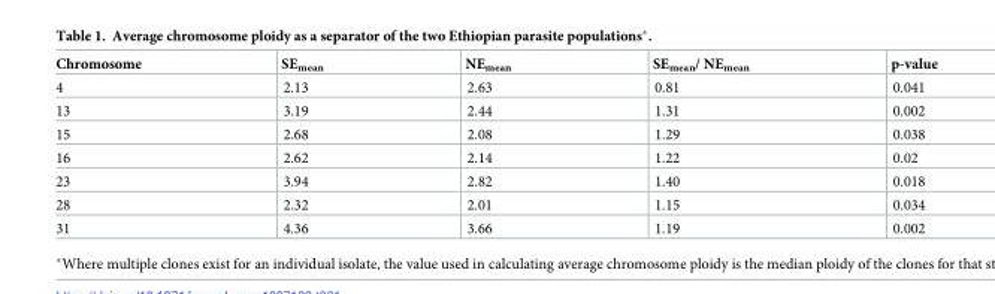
<table><thead><tr><td>Chromosome</td><td>SE<sub>mean</sub></td><td>NE<sub>mean</sub></td><td>SE<sub>mean</sub>/ NE<sub>mean</sub></td><td>p-value</td></tr></thead><tbody><tr><td>4</td><td>2.13</td><td>2.63</td><td>0.81</td><td>0.041</td></tr><tr><td>13</td><td>3.19</td><td>2.44</td><td>1.31</td><td>0.002</td></tr><tr><td>15</td><td>2.68</td><td>2.08</td><td>1.29</td><td>0.038</td></tr><tr><td>16</td><td>2.62</td><td>2.14</td><td>1.22</td><td>0.02</td></tr><tr><td>23</td><td>3.94</td><td>2.82</td><td>1.40</td><td>0.018</td></tr><tr><td>28</td><td>2.32</td><td>2.01</td><td>1.15</td><td>0.034</td></tr><tr><td>31</td><td>4.36</td><td>3.66</td><td>1.19</td><td>0.002</td></tr></tbody></table>